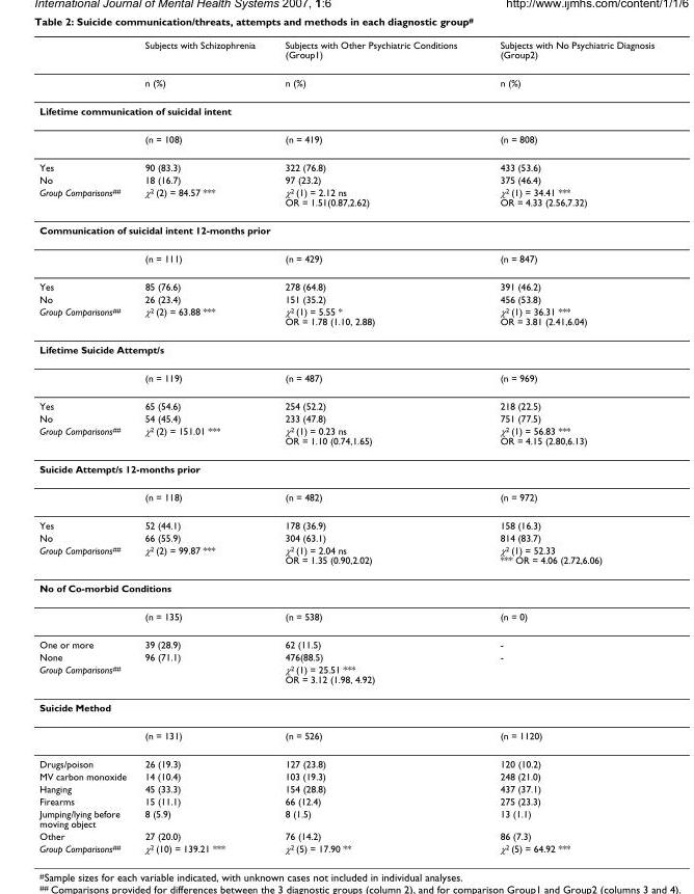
<table><thead><tr><td></td><td>Subjects with Schizophrenia</td><td>Subjects with Other Psychiatric Conditions (Group1)</td><td>Subjects with No Psychiatric Diagnosis (Group2)</td></tr></thead><tbody><tr><td></td><td>n (%)</td><td>n (%)</td><td>n (%)</td></tr><tr><td colspan="4">Lifetime communication of suicidal intent</td></tr><tr><td></td><td>(n = 108)</td><td>(n = 419)</td><td>(n = 808)</td></tr><tr><td>Yes</td><td>90 (83.3)</td><td>322 (76.8)</td><td>433 (53.6)</td></tr><tr><td>No</td><td>18 (16.7)</td><td>97 (23.2)</td><td>375 (46.4)</td></tr><tr><td>Group Comparisons<sup>##</sup></td><td>χ<sup>2</sup> (2) = 84.57 ***</td><td>χ<sup>2</sup> (1) = 2.12 ns OR = 1.51(0.87,2.62)</td><td>χ<sup>2</sup> (1) = 34.41 *** OR = 4.33 (2.56,7.32)</td></tr><tr><td colspan="4">Communication of suicidal intent 12-months prior</td></tr><tr><td></td><td>(n = 111)</td><td>(n = 429)</td><td>(n = 847)</td></tr><tr><td>Yes</td><td>85 (76.6)</td><td>278 (64.8)</td><td>391 (46.2)</td></tr><tr><td>No</td><td>26 (23.4)</td><td>151 (35.2)</td><td>456 (53.8)</td></tr><tr><td>Group Comparisons<sup>##</sup></td><td>χ<sup>2</sup> (2) = 63.88 ***</td><td>χ<sup>2</sup> (1) = 5.55 * OR = 1.78 (1.10, 2.88)</td><td>χ<sup>2</sup> (1) = 36.31 *** OR = 3.81 (2.41,6.04)</td></tr><tr><td colspan="4">Lifetime Suicide Attempt/s</td></tr><tr><td></td><td>(n = 119)</td><td>(n = 487)</td><td>(n = 969)</td></tr><tr><td>Yes</td><td>65 (54.6)</td><td>254 (52.2)</td><td>218 (22.5)</td></tr><tr><td>No</td><td>54 (45.4)</td><td>233 (47.8)</td><td>751 (77.5)</td></tr><tr><td>Group Comparisons<sup>##</sup></td><td>χ<sup>2</sup> (2) = 151.01 ***</td><td>χ<sup>2</sup> (1) = 0.23 ns OR = 1.10 (0.74,1.65)</td><td>χ<sup>2</sup> (1) = 56.83 *** OR = 4.15 (2.80,6.13)</td></tr><tr><td colspan="4">Suicide Attempt/s 12-months prior</td></tr><tr><td></td><td>(n = 118)</td><td>(n = 482)</td><td>(n = 972)</td></tr><tr><td>Yes</td><td>52 (44.1)</td><td>178 (36.9)</td><td>158 (16.3)</td></tr><tr><td>No</td><td>66 (55.9)</td><td>304 (63.1)</td><td>814 (83.7)</td></tr><tr><td>Group Comparisons<sup>##</sup></td><td>χ<sup>2</sup> (2) = 99.87 ***</td><td>χ<sup>2</sup> (1) = 2.04 ns OR = 1.35 (0.90,2.02)</td><td>χ<sup>2</sup> (1) = 52.33 *** OR = 4.06 (2.72,6.06)</td></tr><tr><td colspan="4">No of Co-morbid Conditions</td></tr><tr><td></td><td>(n = 135)</td><td>(n = 538)</td><td>(n = 0)</td></tr><tr><td>One or more</td><td>39 (28.9)</td><td>62 (11.5)</td><td>-</td></tr><tr><td>None</td><td>96 (71.1)</td><td>476(88.5)</td><td>-</td></tr><tr><td>Group Comparisons<sup>##</sup></td><td></td><td>χ<sup>2</sup> (1) = 25.51 *** OR = 3.12 (1.98, 4.92)</td><td></td></tr><tr><td colspan="4">Suicide Method</td></tr><tr><td></td><td>(n = 131)</td><td>(n = 526)</td><td>(n = 1120)</td></tr><tr><td>Drugs/poison</td><td>26 (19.3)</td><td>127 (23.8)</td><td>120 (10.2)</td></tr><tr><td>MV carbon monoxide</td><td>14 (10.4)</td><td>103 (19.3)</td><td>248 (21.0)</td></tr><tr><td>Hanging</td><td>45 (33.3)</td><td>154 (28.8)</td><td>437 (37.1)</td></tr><tr><td>Firearms</td><td>15 (11.1)</td><td>66 (12.4)</td><td>275 (23.3)</td></tr><tr><td>Jumping/lying before moving object</td><td>8 (5.9)</td><td>8 (1.5)</td><td>13 (1.1)</td></tr><tr><td>Other</td><td>27 (20.0)</td><td>76 (14.2)</td><td>86 (7.3)</td></tr><tr><td>Group Comparisons<sup>##</sup></td><td>χ<sup>2</sup> (10) = 139.21 ***</td><td>χ<sup>2</sup> (5) = 17.90 **</td><td>χ<sup>2</sup> (5) = 64.92 ***</td></tr></tbody></table>